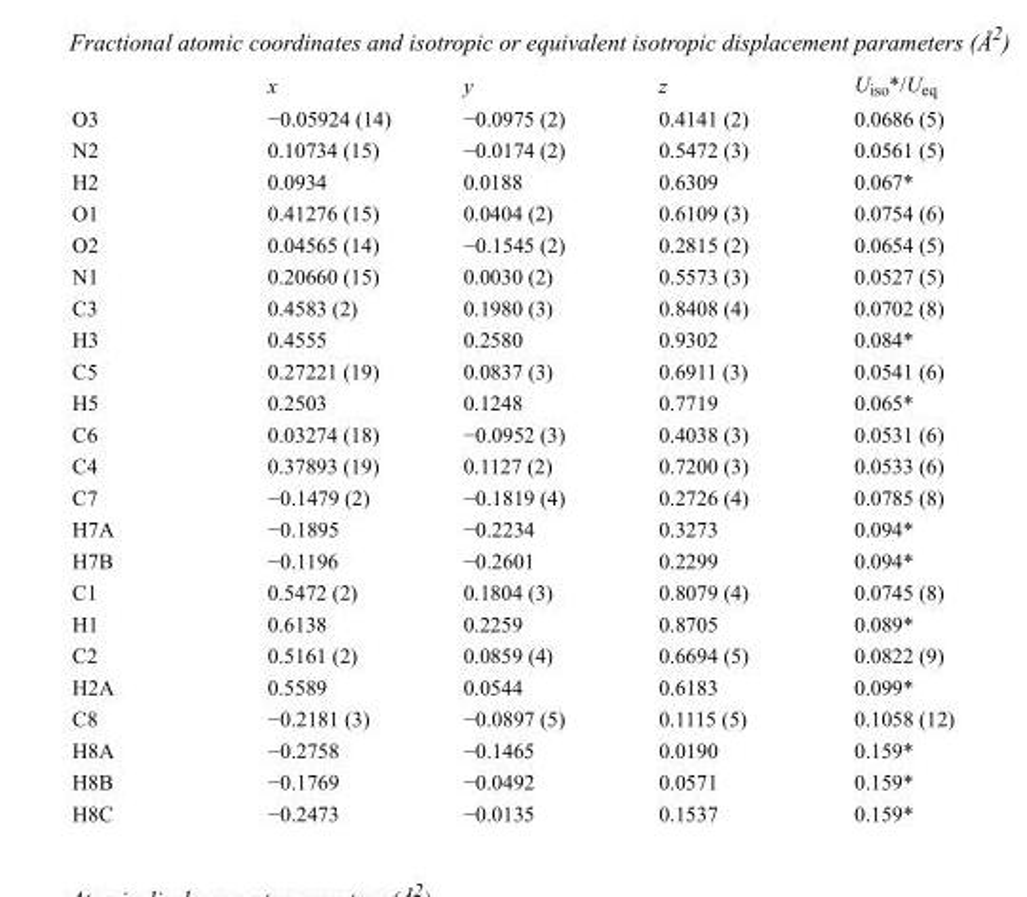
<table><thead><tr><td></td><td>x</td><td>y</td><td>z</td><td>U<sub>iso</sub>*/U<sub>eq</sub></td></tr></thead><tbody><tr><td>O3</td><td>−0.05924 (14)</td><td>−0.0975 (2)</td><td>0.4141 (2)</td><td>0.0686 (5)</td></tr><tr><td>N2</td><td>0.10734 (15)</td><td>−0.0174 (2)</td><td>0.5472 (3)</td><td>0.0561 (5)</td></tr><tr><td>H2</td><td>0.0934</td><td>0.0188</td><td>0.6309</td><td>0.067*</td></tr><tr><td>O1</td><td>0.41276 (15)</td><td>0.0404 (2)</td><td>0.6109 (3)</td><td>0.0754 (6)</td></tr><tr><td>O2</td><td>0.04565 (14)</td><td>−0.1545 (2)</td><td>0.2815 (2)</td><td>0.0654 (5)</td></tr><tr><td>N1</td><td>0.20660 (15)</td><td>0.0030 (2)</td><td>0.5573 (3)</td><td>0.0527 (5)</td></tr><tr><td>C3</td><td>0.4583 (2)</td><td>0.1980 (3)</td><td>0.8408 (4)</td><td>0.0702 (8)</td></tr><tr><td>H3</td><td>0.4555</td><td>0.2580</td><td>0.9302</td><td>0.084*</td></tr><tr><td>C5</td><td>0.27221 (19)</td><td>0.0837 (3)</td><td>0.6911 (3)</td><td>0.0541 (6)</td></tr><tr><td>H5</td><td>0.2503</td><td>0.1248</td><td>0.7719</td><td>0.065*</td></tr><tr><td>C6</td><td>0.03274 (18)</td><td>−0.0952 (3)</td><td>0.4038 (3)</td><td>0.0531 (6)</td></tr><tr><td>C4</td><td>0.37893 (19)</td><td>0.1127 (2)</td><td>0.7200 (3)</td><td>0.0533 (6)</td></tr><tr><td>C7</td><td>−0.1479 (2)</td><td>−0.1819 (4)</td><td>0.2726 (4)</td><td>0.0785 (8)</td></tr><tr><td>H7A</td><td>−0.1895</td><td>−0.2234</td><td>0.3273</td><td>0.094*</td></tr><tr><td>H7B</td><td>−0.1196</td><td>−0.2601</td><td>0.2299</td><td>0.094*</td></tr><tr><td>C1</td><td>0.5472 (2)</td><td>0.1804 (3)</td><td>0.8079 (4)</td><td>0.0745 (8)</td></tr><tr><td>H1</td><td>0.6138</td><td>0.2259</td><td>0.8705</td><td>0.089*</td></tr><tr><td>C2</td><td>0.5161 (2)</td><td>0.0859 (4)</td><td>0.6694 (5)</td><td>0.0822 (9)</td></tr><tr><td>H2A</td><td>0.5589</td><td>0.0544</td><td>0.6183</td><td>0.099*</td></tr><tr><td>C8</td><td>−0.2181 (3)</td><td>−0.0897 (5)</td><td>0.1115 (5)</td><td>0.1058 (12)</td></tr><tr><td>H8A</td><td>−0.2758</td><td>−0.1465</td><td>0.0190</td><td>0.159*</td></tr><tr><td>H8B</td><td>−0.1769</td><td>−0.0492</td><td>0.0571</td><td>0.159*</td></tr><tr><td>H8C</td><td>−0.2473</td><td>−0.0135</td><td>0.1537</td><td>0.159*</td></tr></tbody></table>